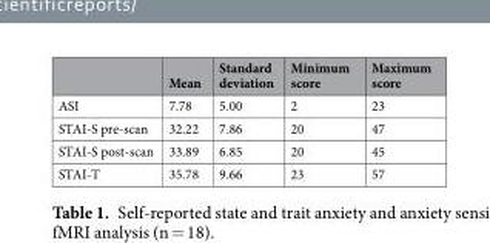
<table><thead><tr><td></td><td>Mean</td><td>Standard deviation</td><td>Minimum score</td><td>Maximum score</td></tr></thead><tbody><tr><td>ASI</td><td>7.78</td><td>5.00</td><td>2</td><td>23</td></tr><tr><td>STAI-S pre-scan</td><td>32.22</td><td>7.86</td><td>20</td><td>47</td></tr><tr><td>STAI-S post-scan</td><td>33.89</td><td>6.85</td><td>20</td><td>45</td></tr><tr><td>STAI-T</td><td>35.78</td><td>9.66</td><td>23</td><td>57</td></tr></tbody></table>